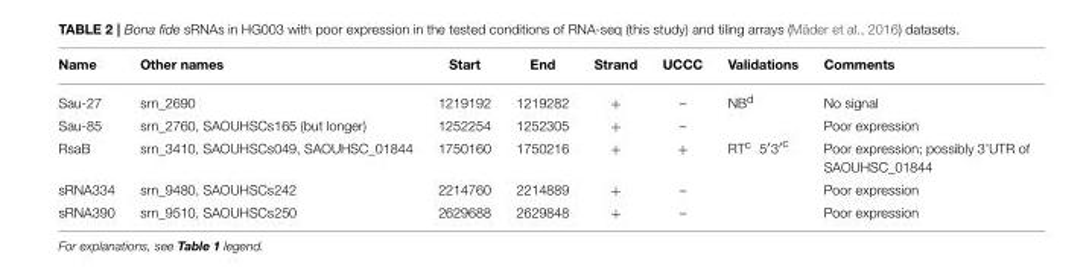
<table><thead><tr><td>Name</td><td>Other names</td><td>Start</td><td>End</td><td>Strand</td><td>UCCC</td><td>Validations</td><td>Comments</td></tr></thead><tbody><tr><td>Sau-27</td><td>srn_2690</td><td>1219192</td><td>1219282</td><td>+</td><td>–</td><td>NB<sup>d</sup></td><td>No signal</td></tr><tr><td>Sau-85</td><td>srn_2760, SAOUHSCs165 (but longer)</td><td>1252254</td><td>1252305</td><td>+</td><td>–</td><td></td><td>Poor expression</td></tr><tr><td>RsaB</td><td>srn_3410, SAOUHSCs049, SAOUHSC_01844</td><td>1750160</td><td>1750216</td><td>+</td><td>+</td><td>RT<sup>c</sup> 5′3′<sup>c</sup></td><td>Poor expression; possibly 3’UTR of SAOUHSC_01844</td></tr><tr><td>sRNA334</td><td>srn_9480, SAOUHSCs242</td><td>2214760</td><td>2214889</td><td>+</td><td>–</td><td></td><td>Poor expression</td></tr><tr><td>sRNA390</td><td>srn_9510, SAOUHSCs250</td><td>2629688</td><td>2629848</td><td>+</td><td>–</td><td></td><td>Poor expression</td></tr></tbody></table>